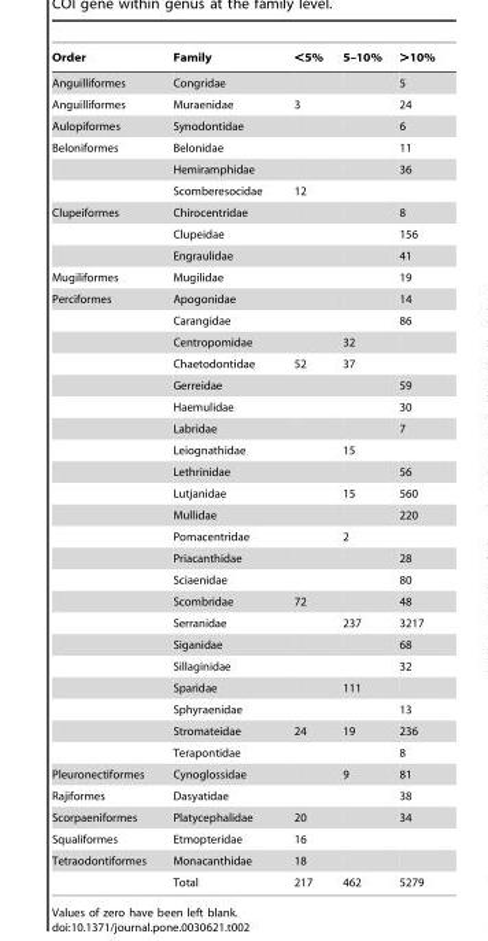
<table><thead><tr><td>Order</td><td>Family</td><td>&lt;5%</td><td>5–10%</td><td>&gt;10%</td></tr></thead><tbody><tr><td>Anguilliformes</td><td>Congridae</td><td></td><td></td><td>5</td></tr><tr><td>Anguilliformes</td><td>Muraenidae</td><td>3</td><td></td><td>24</td></tr><tr><td>Aulopiformes</td><td>Synodontidae</td><td></td><td></td><td>6</td></tr><tr><td rowspan="3">Beloniformes</td><td>Belonidae</td><td></td><td></td><td>11</td></tr><tr><td>Hemiramphidae</td><td></td><td></td><td>36</td></tr><tr><td>Scomberesocidae</td><td>12</td><td></td><td></td></tr><tr><td rowspan="3">Clupeiformes</td><td>Chirocentridae</td><td></td><td></td><td>8</td></tr><tr><td>Clupeidae</td><td></td><td></td><td>156</td></tr><tr><td>Engraulidae</td><td></td><td></td><td>41</td></tr><tr><td>Mugiliformes</td><td>Mugilidae</td><td></td><td></td><td>19</td></tr><tr><td rowspan="22">Perciformes</td><td>Apogonidae</td><td></td><td></td><td>14</td></tr><tr><td>Carangidae</td><td></td><td></td><td>86</td></tr><tr><td>Centropomidae</td><td></td><td>32</td><td></td></tr><tr><td>Chaetodontidae</td><td>52</td><td>37</td><td></td></tr><tr><td>Gerreidae</td><td></td><td></td><td>59</td></tr><tr><td>Haemulidae</td><td></td><td></td><td>30</td></tr><tr><td>Labridae</td><td></td><td></td><td>7</td></tr><tr><td>Leiognathidae</td><td></td><td>15</td><td></td></tr><tr><td>Lethrinidae</td><td></td><td></td><td>56</td></tr><tr><td>Lutjanidae</td><td></td><td>15</td><td>560</td></tr><tr><td>Mullidae</td><td></td><td></td><td>220</td></tr><tr><td>Pomacentridae</td><td></td><td>2</td><td></td></tr><tr><td>Priacanthidae</td><td></td><td></td><td>28</td></tr><tr><td>Sciaenidae</td><td></td><td></td><td>80</td></tr><tr><td>Scombridae</td><td>72</td><td></td><td>48</td></tr><tr><td>Serranidae</td><td></td><td>237</td><td>3217</td></tr><tr><td>Siganidae</td><td></td><td></td><td>68</td></tr><tr><td>Sillaginidae</td><td></td><td></td><td>32</td></tr><tr><td>Sparidae</td><td></td><td>111</td><td></td></tr><tr><td>Sphyraenidae</td><td></td><td></td><td>13</td></tr><tr><td>Stromateidae</td><td>24</td><td>19</td><td>236</td></tr><tr><td>Terapontidae</td><td></td><td></td><td>8</td></tr><tr><td>Pleuronectiformes</td><td>Cynoglossidae</td><td></td><td>9</td><td>81</td></tr><tr><td>Rajiformes</td><td>Dasyatidae</td><td></td><td></td><td>38</td></tr><tr><td>Scorpaeniformes</td><td>Platycephalidae</td><td>20</td><td></td><td>34</td></tr><tr><td>Squaliformes</td><td>Etmopteridae</td><td>16</td><td></td><td></td></tr><tr><td rowspan="2">Tetraodontiformes</td><td>Monacanthidae</td><td>18</td><td></td><td></td></tr><tr><td>Total</td><td>217</td><td>462</td><td>5279</td></tr></tbody></table>